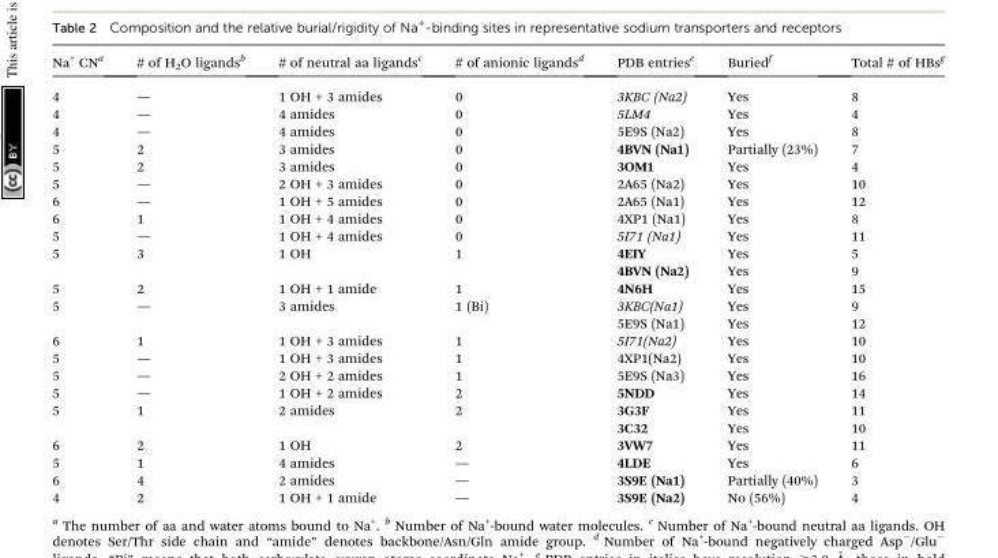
<table><thead><tr><td>Na<sup>+</sup> CN<sup>a</sup></td><td># of H<sub>2</sub>O ligands<sup>b</sup></td><td># of neutral aa ligands<sup>c</sup></td><td># of anionic ligands<sup>d</sup></td><td>PDB entries<sup>e</sup></td><td>Buried<sup>f</sup></td><td>Total # of HBs<sup>g</sup></td></tr></thead><tbody><tr><td>4</td><td>—</td><td>1 OH + 3 amides</td><td>0</td><td>3KBC (Na2)</td><td>Yes</td><td>8</td></tr><tr><td>4</td><td>—</td><td>4 amides</td><td>0</td><td>5LM4</td><td>Yes</td><td>4</td></tr><tr><td>4</td><td>—</td><td>4 amides</td><td>0</td><td>5E9S (Na2)</td><td>Yes</td><td>8</td></tr><tr><td>5</td><td>2</td><td>3 amides</td><td>0</td><td>4BVN (Na1)</td><td>Partially (23%)</td><td>7</td></tr><tr><td>5</td><td>2</td><td>3 amides</td><td>0</td><td>3OM1</td><td>Yes</td><td>4</td></tr><tr><td>5</td><td>—</td><td>2 OH + 3 amides</td><td>0</td><td>2A65 (Na2)</td><td>Yes</td><td>10</td></tr><tr><td>6</td><td>—</td><td>1 OH + 5 amides</td><td>0</td><td>2A65 (Na1)</td><td>Yes</td><td>12</td></tr><tr><td>6</td><td>1</td><td>1 OH + 4 amides</td><td>0</td><td>4XP1 (Na1)</td><td>Yes</td><td>8</td></tr><tr><td>5</td><td>—</td><td>1 OH + 4 amides</td><td>0</td><td>5I71 (Na1)</td><td>Yes</td><td>11</td></tr><tr><td rowspan="2">5</td><td rowspan="2">3</td><td rowspan="2">1 OH</td><td rowspan="2">1</td><td>4EIY</td><td>Yes</td><td>5</td></tr><tr><td>4BVN (Na2)</td><td>Yes</td><td>9</td></tr><tr><td>5</td><td>2</td><td>1 OH + 1 amide</td><td>1</td><td>4N6H</td><td>Yes</td><td>15</td></tr><tr><td rowspan="2">5</td><td rowspan="2">—</td><td rowspan="2">3 amides</td><td rowspan="2">1 (Bi)</td><td>3KBC(Na1)</td><td>Yes</td><td>9</td></tr><tr><td>5E9S (Na1)</td><td>Yes</td><td>12</td></tr><tr><td>6</td><td>1</td><td>1 OH + 3 amides</td><td>1</td><td>5I71(Na2)</td><td>Yes</td><td>10</td></tr><tr><td>5</td><td>—</td><td>1 OH + 3 amides</td><td>1</td><td>4XP1(Na2)</td><td>Yes</td><td>10</td></tr><tr><td>5</td><td>—</td><td>2 OH + 2 amides</td><td>1</td><td>5E9S (Na3)</td><td>Yes</td><td>16</td></tr><tr><td>5</td><td>—</td><td>1 OH + 2 amides</td><td>2</td><td>5NDD</td><td>Yes</td><td>14</td></tr><tr><td rowspan="2">5</td><td rowspan="2">1</td><td rowspan="2">2 amides</td><td rowspan="2">2</td><td>3G3F</td><td>Yes</td><td>11</td></tr><tr><td>3C32</td><td>Yes</td><td>10</td></tr><tr><td>6</td><td>2</td><td>1 OH</td><td>2</td><td>3VW7</td><td>Yes</td><td>11</td></tr><tr><td>5</td><td>1</td><td>4 amides</td><td>—</td><td>4LDE</td><td>Yes</td><td>6</td></tr><tr><td>6</td><td>4</td><td>2 amides</td><td>—</td><td>3S9E (Na1)</td><td>Partially (40%)</td><td>3</td></tr><tr><td>4</td><td>2</td><td>1 OH + 1 amide</td><td>—</td><td>3S9E (Na2)</td><td>No (56%)</td><td>4</td></tr></tbody></table>